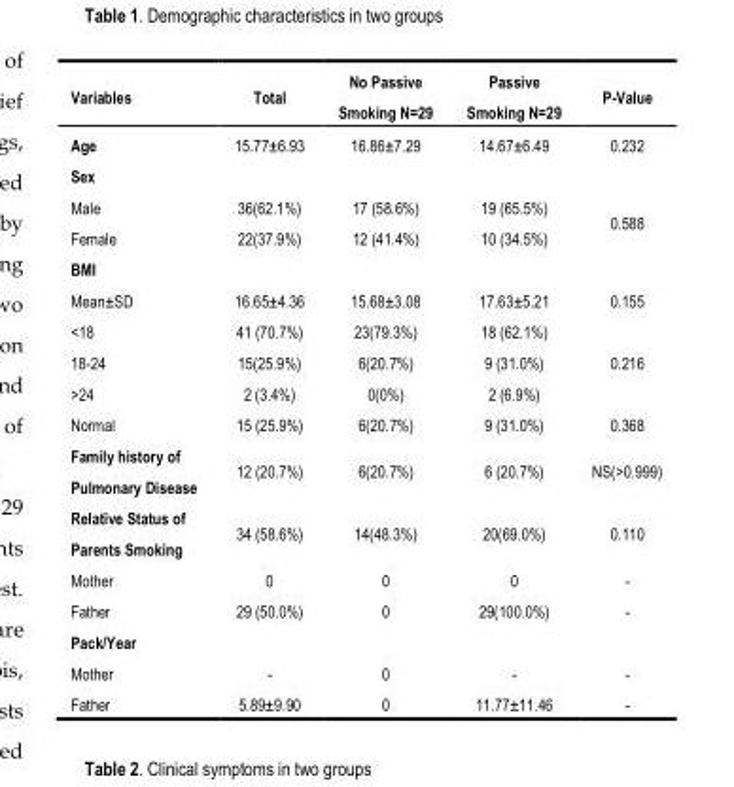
<table><thead><tr><td>Variables</td><td>Total</td><td>No Passive Smoking N=29</td><td>Passive Smoking N=29</td><td>P-Value</td></tr></thead><tbody><tr><td>Age</td><td>15.77±6.93</td><td>16.86±7.29</td><td>14.67±6.49</td><td>0.232</td></tr><tr><td colspan="5">Sex</td></tr><tr><td>Male</td><td>36(62.1%)</td><td>17 (58.6%)</td><td>19 (65.5%)</td><td rowspan="2">0.588</td></tr><tr><td>Female</td><td>22(37.9%)</td><td>12 (41.4%)</td><td>10 (34.5%)</td></tr><tr><td colspan="5">BMI</td></tr><tr><td>Mean±SD</td><td>16.65±4.36</td><td>15.68±3.08</td><td>17.63±5.21</td><td rowspan="2">0.155</td></tr><tr><td>&lt;18</td><td>41 (70.7%)</td><td>23(79.3%)</td><td>18 (62.1%)</td></tr><tr><td>18-24</td><td>15(25.9%)</td><td>6(20.7%)</td><td>9 (31.0%)</td><td rowspan="2">0.216</td></tr><tr><td>&gt;24</td><td>2 (3.4%)</td><td>0(0%)</td><td>2 (6.9%)</td></tr><tr><td>Normal</td><td>15 (25.9%)</td><td>6(20.7%)</td><td>9 (31.0%)</td><td>0.368</td></tr><tr><td>Family history of Pulmonary Disease</td><td>12 (20.7%)</td><td>6(20.7%)</td><td>6 (20.7%)</td><td>NS(&gt;0.999)</td></tr><tr><td>Relative Status of Parents Smoking</td><td>34 (58.6%)</td><td>14(48.3%)</td><td>20(69.0%)</td><td>0.110</td></tr><tr><td>Mother</td><td>0</td><td>0</td><td>0</td><td>-</td></tr><tr><td>Father</td><td>29 (50.0%)</td><td>0</td><td>29(100.0%)</td><td>-</td></tr><tr><td colspan="5">Pack/Year</td></tr><tr><td>Mother</td><td>-</td><td>0</td><td>-</td><td>-</td></tr><tr><td>Father</td><td>5.89±9.90</td><td>0</td><td>11.77±11.46</td><td>-</td></tr></tbody></table>